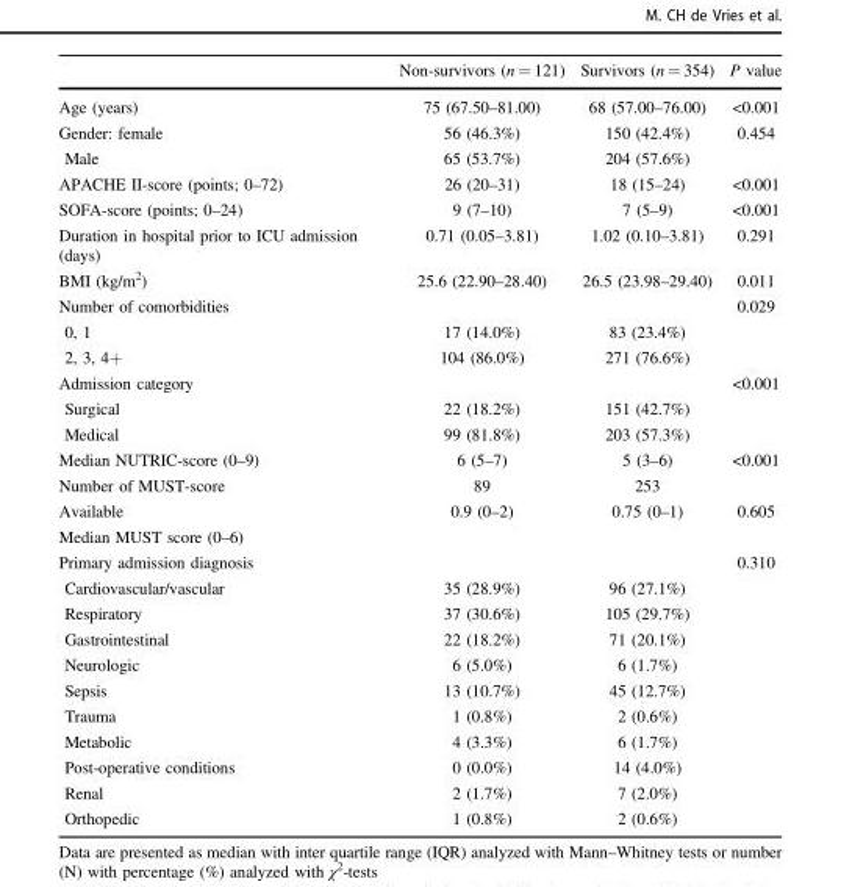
<table><thead><tr><td></td><td>Non-survivors (n = 121)</td><td>Survivors (n = 354)</td><td>P value</td></tr></thead><tbody><tr><td>Age (years)</td><td>75 (67.50–81.00)</td><td>68 (57.00–76.00)</td><td>&lt;0.001</td></tr><tr><td>Gender: female</td><td>56 (46.3%)</td><td>150 (42.4%)</td><td>0.454</td></tr><tr><td>Male</td><td>65 (53.7%)</td><td>204 (57.6%)</td><td></td></tr><tr><td>APACHE II-score (points; 0–72)</td><td>26 (20–31)</td><td>18 (15–24)</td><td>&lt;0.001</td></tr><tr><td>SOFA-score (points; 0–24)</td><td>9 (7–10)</td><td>7 (5–9)</td><td>&lt;0.001</td></tr><tr><td>Duration in hospital prior to ICU admission (days)</td><td>0.71 (0.05–3.81)</td><td>1.02 (0.10–3.81)</td><td>0.291</td></tr><tr><td>BMI (kg/m<sup>2</sup>)</td><td>25.6 (22.90–28.40)</td><td>26.5 (23.98–29.40)</td><td>0.011</td></tr><tr><td>Number of comorbidities</td><td></td><td></td><td>0.029</td></tr><tr><td>0, 1</td><td>17 (14.0%)</td><td>83 (23.4%)</td><td></td></tr><tr><td>2, 3, 4+</td><td>104 (86.0%)</td><td>271 (76.6%)</td><td></td></tr><tr><td>Admission category</td><td></td><td></td><td>&lt;0.001</td></tr><tr><td>Surgical</td><td>22 (18.2%)</td><td>151 (42.7%)</td><td></td></tr><tr><td>Medical</td><td>99 (81.8%)</td><td>203 (57.3%)</td><td></td></tr><tr><td>Median NUTRIC-score (0–9)</td><td>6 (5–7)</td><td>5 (3–6)</td><td>&lt;0.001</td></tr><tr><td>Number of MUST-score</td><td>89</td><td>253</td><td></td></tr><tr><td>Available</td><td>0.9 (0–2)</td><td>0.75 (0–1)</td><td>0.605</td></tr><tr><td colspan="4">Median MUST score (0–6)</td></tr><tr><td>Primary admission diagnosis</td><td></td><td></td><td>0.310</td></tr><tr><td>Cardiovascular/vascular</td><td>35 (28.9%)</td><td>96 (27.1%)</td><td></td></tr><tr><td>Respiratory</td><td>37 (30.6%)</td><td>105 (29.7%)</td><td></td></tr><tr><td>Gastrointestinal</td><td>22 (18.2%)</td><td>71 (20.1%)</td><td></td></tr><tr><td>Neurologic</td><td>6 (5.0%)</td><td>6 (1.7%)</td><td></td></tr><tr><td>Sepsis</td><td>13 (10.7%)</td><td>45 (12.7%)</td><td></td></tr><tr><td>Trauma</td><td>1 (0.8%)</td><td>2 (0.6%)</td><td></td></tr><tr><td>Metabolic</td><td>4 (3.3%)</td><td>6 (1.7%)</td><td></td></tr><tr><td>Post-operative conditions</td><td>0 (0.0%)</td><td>14 (4.0%)</td><td></td></tr><tr><td>Renal</td><td>2 (1.7%)</td><td>7 (2.0%)</td><td></td></tr><tr><td>Orthopedic</td><td>1 (0.8%)</td><td>2 (0.6%)</td><td></td></tr></tbody></table>